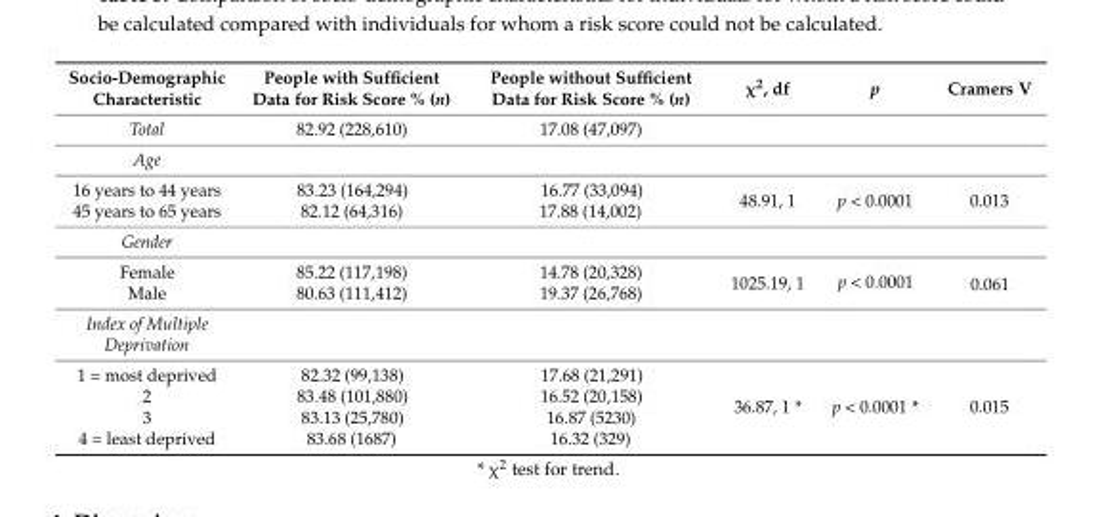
<table><thead><tr><td>Socio-Demographic Characteristic</td><td>People with Sufficient Data for Risk Score % (n)</td><td>People without Sufficient Data for Risk Score % (n)</td><td>χ<sup>2</sup>, df</td><td>p</td><td>Cramers V</td></tr></thead><tbody><tr><td>Total</td><td>82.92 (228,610)</td><td>17.08 (47,097)</td><td></td><td></td><td></td></tr><tr><td colspan="6">Age</td></tr><tr><td>16 years to 44 years 45 years to 65 years</td><td>83.23 (164,294) 82.12 (64,316)</td><td>16.77 (33,094) 17.88 (14,002)</td><td>48.91, 1</td><td>p &lt; 0.0001</td><td>0.013</td></tr><tr><td colspan="6">Gender</td></tr><tr><td>Female</td><td>85.22 (117,198)</td><td>14.78 (20,328)</td><td rowspan="2">1025.19, 1</td><td rowspan="2">p &lt; 0.0001</td><td rowspan="2">0.061</td></tr><tr><td>Male</td><td>80.63 (111,412)</td><td>19.37 (26,768)</td></tr><tr><td colspan="6">Index of Multiple Deprivation</td></tr><tr><td>1 = most deprived 2 3 4 = least deprived</td><td>82.32 (99,138) 83.48 (101,880) 83.13 (25,780) 83.68 (1687)</td><td>17.68 (21,291) 16.52 (20,158) 16.87 (5230) 16.32 (329)</td><td>36.87, 1 *</td><td>p &lt; 0.0001 *</td><td>0.015</td></tr></tbody></table>